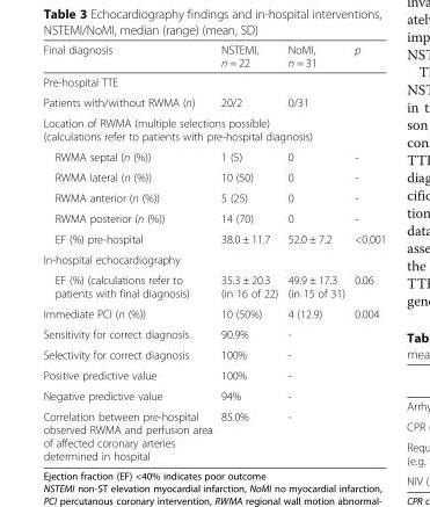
<table><thead><tr><td>Final diagnosis</td><td>NSTEMI, n = 22</td><td>NoMI, n = 31</td><td>p</td></tr></thead><tbody><tr><td colspan="4">Pre-hospital TTE</td></tr><tr><td>Patients with/without RWMA (n)</td><td>20/2</td><td>0/31</td><td></td></tr><tr><td colspan="4">Location of RWMA (multiple selections possible) (calculations refer to patients with pre-hospital diagnosis)</td></tr><tr><td>RWMA septal (n (%))</td><td>1 (5)</td><td>0</td><td>-</td></tr><tr><td>RWMA lateral (n (%))</td><td>10 (50)</td><td>0</td><td>-</td></tr><tr><td>RWMA anterior (n (%))</td><td>5 (25)</td><td>0</td><td>-</td></tr><tr><td>RWMA posterior (n (%))</td><td>14 (70)</td><td>0</td><td>-</td></tr><tr><td>EF (%) pre-hospital</td><td>38.0 ± 11.7</td><td>52.0 ± 7.2</td><td>&lt;0.001</td></tr><tr><td colspan="4">In-hospital echocardiography</td></tr><tr><td>EF (%) (calculations refer to patients with final diagnosis)</td><td>35.3 ± 20.3 (in 16 of 22)</td><td>49.9 ± 17.3 (in 15 of 31)</td><td>0.06</td></tr><tr><td>Immediate PCI (n (%))</td><td>10 (50%)</td><td>4 (12.9)</td><td>0.004</td></tr><tr><td>Sensitivity for correct diagnosis</td><td>90.9%</td><td>-</td><td></td></tr><tr><td>Selectivity for correct diagnosis</td><td>100%</td><td>-</td><td></td></tr><tr><td>Positive predictive value</td><td>100%</td><td>-</td><td></td></tr><tr><td>Negative predictive value</td><td>94%</td><td>-</td><td></td></tr><tr><td>Correlation between pre-hospital observed RWMA and perfusion area of affected coronary arteries determined in hospital</td><td>85.0%</td><td>-</td><td></td></tr></tbody></table>